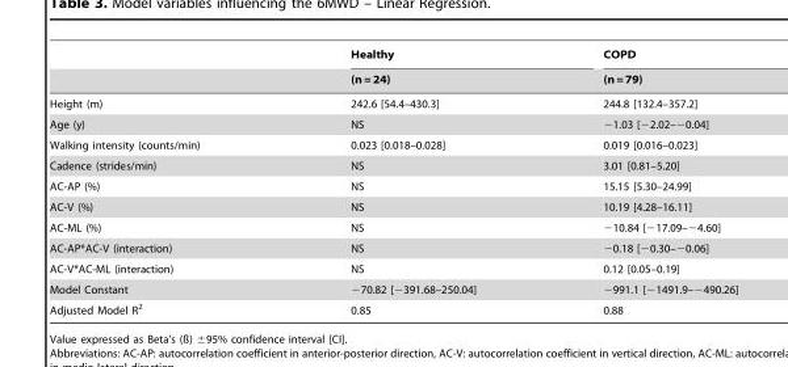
<table><thead><tr><td rowspan="2"></td><td rowspan="2">Healthy (n = 24)</td><td rowspan="2">COPD (n = 79)</td></tr><tr></tr></thead><tbody><tr><td>Height (m)</td><td>242.6 [54.4–430.3]</td><td>244.8 [132.4–357.2]</td></tr><tr><td>Age (y)</td><td>NS</td><td>−1.03 [−2.02–−0.04]</td></tr><tr><td>Walking intensity (counts/min)</td><td>0.023 [0.018–0.028]</td><td>0.019 [0.016–0.023]</td></tr><tr><td>Cadence (strides/min)</td><td>NS</td><td>3.01 [0.81–5.20]</td></tr><tr><td>AC-AP (%)</td><td>NS</td><td>15.15 [5.30–24.99]</td></tr><tr><td>AC-V (%)</td><td>NS</td><td>10.19 [4.28–16.11]</td></tr><tr><td>AC-ML (%)</td><td>NS</td><td>−10.84 [−17.09–−4.60]</td></tr><tr><td>AC-AP*AC-V (interaction)</td><td>NS</td><td>−0.18 [−0.30–−0.06]</td></tr><tr><td>AC-V*AC-ML (interaction)</td><td>NS</td><td>0.12 [0.05–0.19]</td></tr><tr><td>Model Constant</td><td>−70.82 [−391.68–250.04]</td><td>−991.1 [−1491.9–−490.26]</td></tr><tr><td>Adjusted Model R<sup>2</sup></td><td>0.85</td><td>0.88</td></tr></tbody></table>